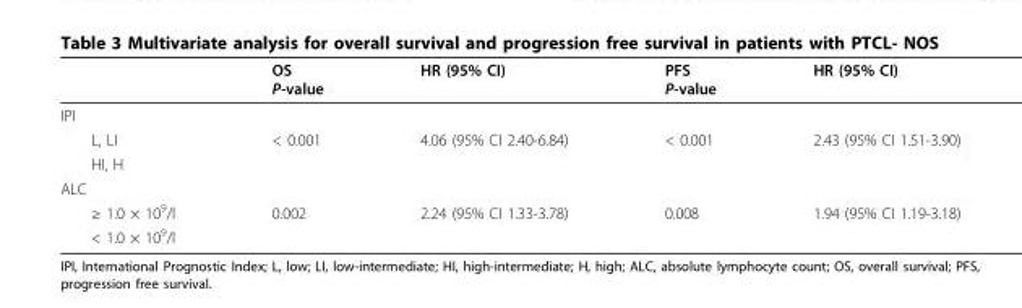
<table><thead><tr><td></td><td>OS P-value</td><td>HR (95% CI)</td><td>PFS P-value</td><td>HR (95% CI)</td></tr></thead><tbody><tr><td colspan="5">IPI</td></tr><tr><td>L, LI</td><td>&lt; 0.001</td><td>4.06 (95% CI 2.40-6.84)</td><td>&lt; 0.001</td><td>2.43 (95% CI 1.51-3.90)</td></tr><tr><td colspan="5">HI, H</td></tr><tr><td colspan="5">ALC</td></tr><tr><td>≥ 1.0 × 10<sup>9</sup>/l</td><td>0.002</td><td>2.24 (95% CI 1.33-3.78)</td><td>0.008</td><td>1.94 (95% CI 1.19-3.18)</td></tr><tr><td>&lt; 1.0 × 10<sup>9</sup>/l</td><td></td><td></td><td></td><td></td></tr></tbody></table>